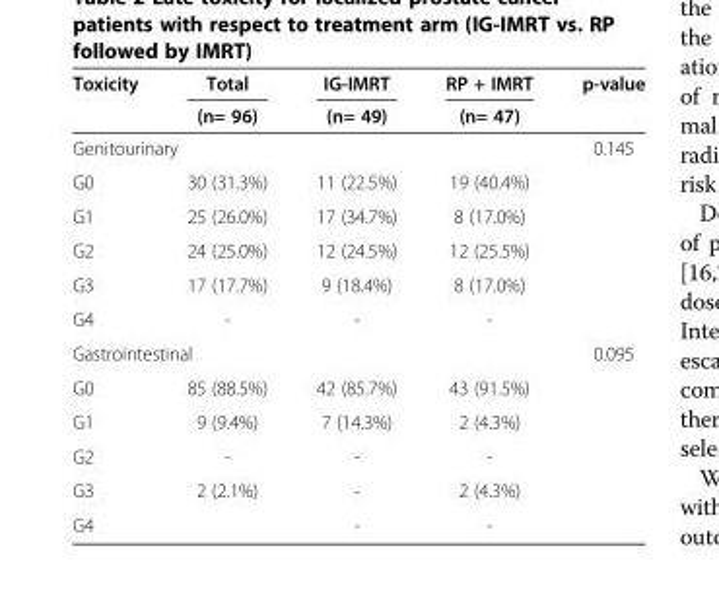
<table><thead><tr><td rowspan="2">Toxicity</td><td rowspan="2">Total (n= 96)</td><td rowspan="2">IG-IMRT (n= 49)</td><td rowspan="2">RP + IMRT (n= 47)</td><td rowspan="2">p-value</td></tr><tr></tr></thead><tbody><tr><td colspan="4">Genitourinary</td><td rowspan="6">0.145</td></tr><tr><td>G0</td><td>30 (31.3%)</td><td>11 (22.5%)</td><td>19 (40.4%)</td></tr><tr><td>G1</td><td>25 (26.0%)</td><td>17 (34.7%)</td><td>8 (17.0%)</td></tr><tr><td>G2</td><td>24 (25.0%)</td><td>12 (24.5%)</td><td>12 (25.5%)</td></tr><tr><td>G3</td><td>17 (17.7%)</td><td>9 (18.4%)</td><td>8 (17.0%)</td></tr><tr><td>G4</td><td>-</td><td>-</td><td>-</td></tr><tr><td colspan="4">Gastrointestinal</td><td rowspan="5">0.095</td></tr><tr><td>G0</td><td>85 (88.5%)</td><td>42 (85.7%)</td><td>43 (91.5%)</td></tr><tr><td>G1</td><td>9 (9.4%)</td><td>7 (14.3%)</td><td>2 (4.3%)</td></tr><tr><td>G2</td><td>-</td><td>-</td><td>-</td></tr><tr><td>G3</td><td>2 (2.1%)</td><td>-</td><td>2 (4.3%)</td></tr><tr><td>G4</td><td></td><td>-</td><td>-</td><td></td></tr></tbody></table>